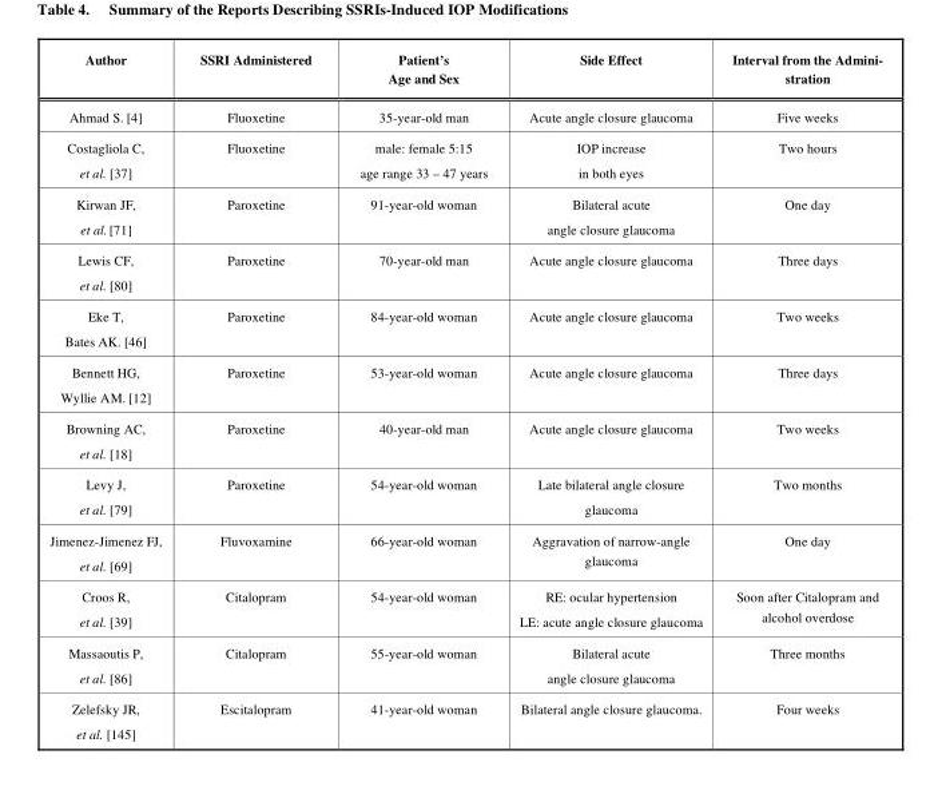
<table><thead><tr><td>Author</td><td>SSRI Administered</td><td>Patient’s Age and Sex</td><td>Side Effect</td><td>Interval from the Admini- stration</td></tr></thead><tbody><tr><td>Ahmad S. [4]</td><td>Fluoxetine</td><td>35-year-old man</td><td>Acute angle closure glaucoma</td><td>Five weeks</td></tr><tr><td>Costagliola C, et al. [37]</td><td>Fluoxetine</td><td>male: female 5:15 age range 33 – 47 years</td><td>IOP increase in both eyes</td><td>Two hours</td></tr><tr><td>Kirwan JF, et al. [71]</td><td>Paroxetine</td><td>91-year-old woman</td><td>Bilateral acute angle closure glaucoma</td><td>One day</td></tr><tr><td>Lewis CF, et al. [80]</td><td>Paroxetine</td><td>70-year-old man</td><td>Acute angle closure glaucoma</td><td>Three days</td></tr><tr><td>Eke T, Bates AK. [46]</td><td>Paroxetine</td><td>84-year-old woman</td><td>Acute angle closure glaucoma</td><td>Two weeks</td></tr><tr><td>Bennett HG, Wyllie AM. [12]</td><td>Paroxetine</td><td>53-year-old woman</td><td>Acute angle closure glaucoma</td><td>Three days</td></tr><tr><td>Browning AC, et al. [18]</td><td>Paroxetine</td><td>40-year-old man</td><td>Acute angle closure glaucoma</td><td>Two weeks</td></tr><tr><td>Levy J, et al. [79]</td><td>Paroxetine</td><td>54-year-old woman</td><td>Late bilateral angle closure glaucoma</td><td>Two months</td></tr><tr><td>Jimenez-Jimenez FJ, et al. [69]</td><td>Fluvoxamine</td><td>66-year-old woman</td><td>Aggravation of narrow-angle glaucoma</td><td>One day</td></tr><tr><td>Croos R, et al. [39]</td><td>Citalopram</td><td>54-year-old woman</td><td>RE: ocular hypertension LE: acute angle closure glaucoma</td><td>Soon after Citalopram and alcohol overdose</td></tr><tr><td>Massaoutis P, et al. [86]</td><td>Citalopram</td><td>55-year-old woman</td><td>Bilateral acute angle closure glaucoma</td><td>Three months</td></tr><tr><td>Zelefsky JR, et al. [145]</td><td>Escitalopram</td><td>41-year-old woman</td><td>Bilateral angle closure glaucoma.</td><td>Four weeks</td></tr></tbody></table>